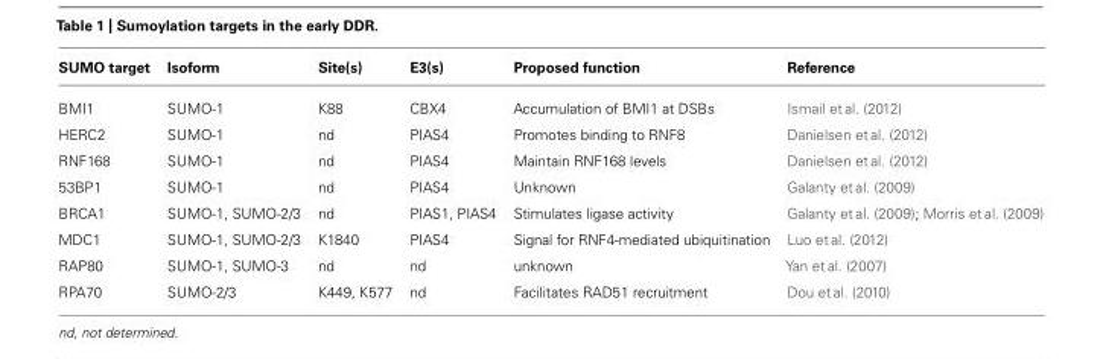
<table><thead><tr><td>SUMO target</td><td>Isoform</td><td>Site(s)</td><td>E3(s)</td><td>Proposed function</td><td>Reference</td></tr></thead><tbody><tr><td>BMI1</td><td>SUMO-1</td><td>K88</td><td>CBX4</td><td>Accumulation of BMI1 at DSBs</td><td>Ismail et al. (2012)</td></tr><tr><td>HERC2</td><td>SUMO-1</td><td>nd</td><td>PIAS4</td><td>Promotes binding to RNF8</td><td>Danielsen et al. (2012)</td></tr><tr><td>RNF168</td><td>SUMO-1</td><td>nd</td><td>PIAS4</td><td>Maintain RNF168 levels</td><td>Danielsen et al. (2012)</td></tr><tr><td>53BP1</td><td>SUMO-1</td><td>nd</td><td>PIAS4</td><td>Unknown</td><td>Galanty et al. (2009)</td></tr><tr><td>BRCA1</td><td>SUMO-1, SUMO-2/3</td><td>nd</td><td>PIAS1, PIAS4</td><td>Stimulates ligase activity</td><td>Galanty et al. (2009); Morris et al. (2009)</td></tr><tr><td>MDC1</td><td>SUMO-1, SUMO-2/3</td><td>K1840</td><td>PIAS4</td><td>Signal for RNF4-mediated ubiquitination</td><td>Luo et al. (2012)</td></tr><tr><td>RAP80</td><td>SUMO-1, SUMO-3</td><td>nd</td><td>nd</td><td>unknown</td><td>Yan et al. (2007)</td></tr><tr><td>RPA70</td><td>SUMO-2/3</td><td>K449, K577</td><td>nd</td><td>Facilitates RAD51 recruitment</td><td>Dou et al. (2010)</td></tr></tbody></table>